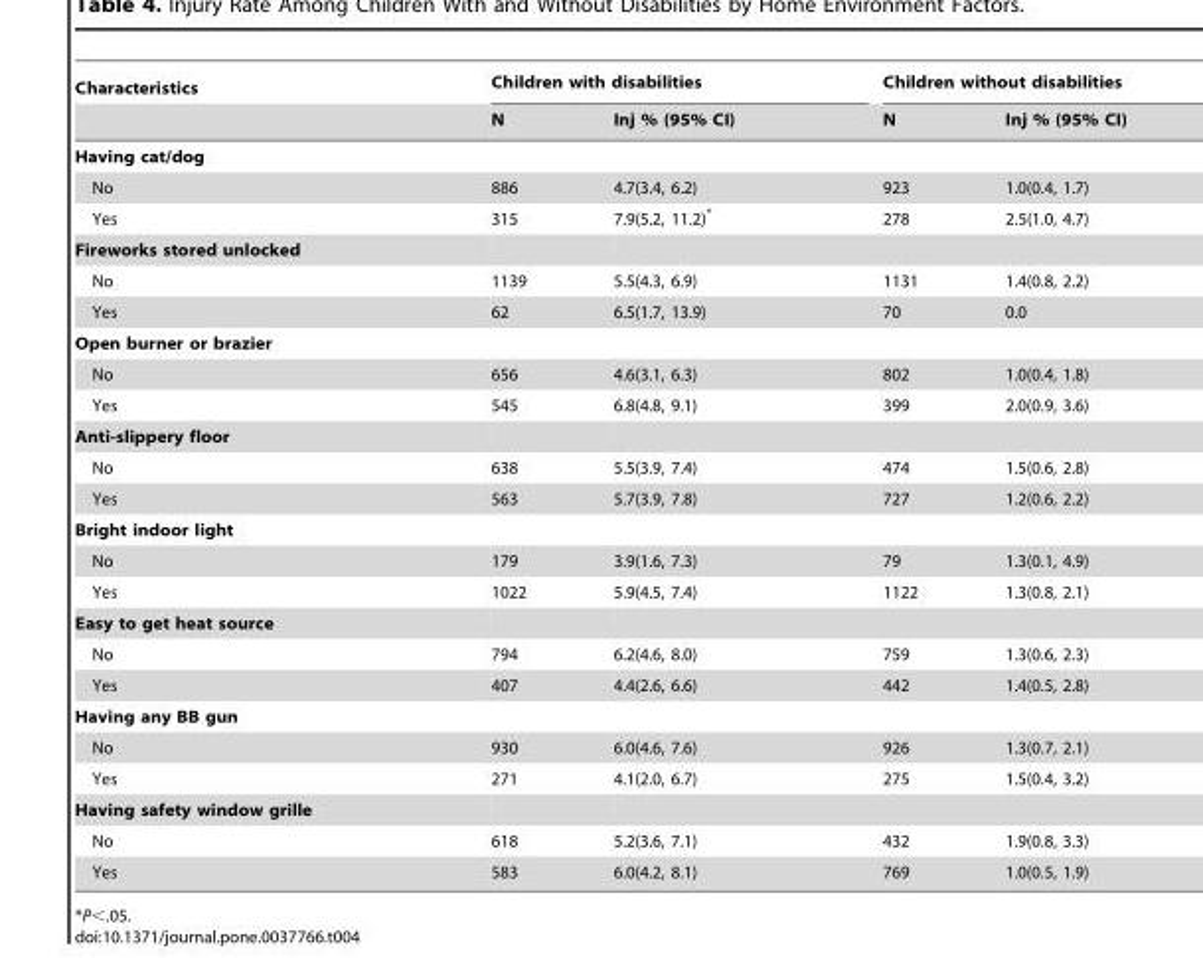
<table><thead><tr><td rowspan="2">Characteristics</td><td colspan="2">Children with disabilities</td><td colspan="2">Children without disabilities</td></tr><tr><td>N</td><td>Inj % (95% CI)</td><td>N</td><td>Inj % (95% CI)</td></tr></thead><tbody><tr><td colspan="5">Having cat/dog</td></tr><tr><td>No</td><td>886</td><td>4.7(3.4, 6.2)</td><td>923</td><td>1.0(0.4, 1.7)</td></tr><tr><td>Yes</td><td>315</td><td>7.9(5.2, 11.2)*</td><td>278</td><td>2.5(1.0, 4.7)</td></tr><tr><td colspan="5">Fireworks stored unlocked</td></tr><tr><td>No</td><td>1139</td><td>5.5(4.3, 6.9)</td><td>1131</td><td>1.4(0.8, 2.2)</td></tr><tr><td>Yes</td><td>62</td><td>6.5(1.7, 13.9)</td><td>70</td><td>0.0</td></tr><tr><td colspan="5">Open burner or brazier</td></tr><tr><td>No</td><td>656</td><td>4.6(3.1, 6.3)</td><td>802</td><td>1.0(0.4, 1.8)</td></tr><tr><td>Yes</td><td>545</td><td>6.8(4.8, 9.1)</td><td>399</td><td>2.0(0.9, 3.6)</td></tr><tr><td colspan="5">Anti-slippery floor</td></tr><tr><td>No</td><td>638</td><td>5.5(3.9, 7.4)</td><td>474</td><td>1.5(0.6, 2.8)</td></tr><tr><td>Yes</td><td>563</td><td>5.7(3.9, 7.8)</td><td>727</td><td>1.2(0.6, 2.2)</td></tr><tr><td colspan="5">Bright indoor light</td></tr><tr><td>No</td><td>179</td><td>3.9(1.6, 7.3)</td><td>79</td><td>1.3(0.1, 4.9)</td></tr><tr><td>Yes</td><td>1022</td><td>5.9(4.5, 7.4)</td><td>1122</td><td>1.3(0.8, 2.1)</td></tr><tr><td colspan="5">Easy to get heat source</td></tr><tr><td>No</td><td>794</td><td>6.2(4.6, 8.0)</td><td>759</td><td>1.3(0.6, 2.3)</td></tr><tr><td>Yes</td><td>407</td><td>4.4(2.6, 6.6)</td><td>442</td><td>1.4(0.5, 2.8)</td></tr><tr><td colspan="5">Having any BB gun</td></tr><tr><td>No</td><td>930</td><td>6.0(4.6, 7.6)</td><td>926</td><td>1.3(0.7, 2.1)</td></tr><tr><td>Yes</td><td>271</td><td>4.1(2.0, 6.7)</td><td>275</td><td>1.5(0.4, 3.2)</td></tr><tr><td colspan="5">Having safety window grille</td></tr><tr><td>No</td><td>618</td><td>5.2(3.6, 7.1)</td><td>432</td><td>1.9(0.8, 3.3)</td></tr><tr><td>Yes</td><td>583</td><td>6.0(4.2, 8.1)</td><td>769</td><td>1.0(0.5, 1.9)</td></tr></tbody></table>